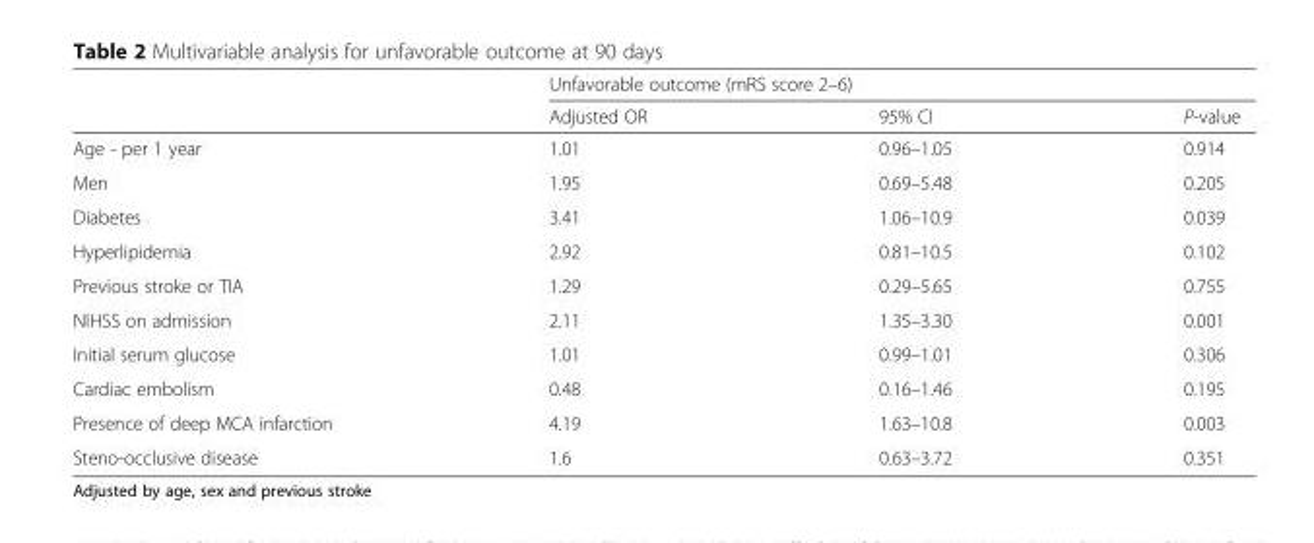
<table><thead><tr><td rowspan="2"></td><td colspan="3">Unfavorable outcome (mRS score 2–6)</td></tr><tr><td>Adjusted OR</td><td>95% CI</td><td>P-value</td></tr></thead><tbody><tr><td>Age - per 1 year</td><td>1.01</td><td>0.96–1.05</td><td>0.914</td></tr><tr><td>Men</td><td>1.95</td><td>0.69–5.48</td><td>0.205</td></tr><tr><td>Diabetes</td><td>3.41</td><td>1.06–10.9</td><td>0.039</td></tr><tr><td>Hyperlipidemia</td><td>2.92</td><td>0.81–10.5</td><td>0.102</td></tr><tr><td>Previous stroke or TIA</td><td>1.29</td><td>0.29–5.65</td><td>0.755</td></tr><tr><td>NIHSS on admission</td><td>2.11</td><td>1.35–3.30</td><td>0.001</td></tr><tr><td>Initial serum glucose</td><td>1.01</td><td>0.99–1.01</td><td>0.306</td></tr><tr><td>Cardiac embolism</td><td>0.48</td><td>0.16–1.46</td><td>0.195</td></tr><tr><td>Presence of deep MCA infarction</td><td>4.19</td><td>1.63–10.8</td><td>0.003</td></tr><tr><td>Steno-occlusive disease</td><td>1.6</td><td>0.63–3.72</td><td>0.351</td></tr></tbody></table>